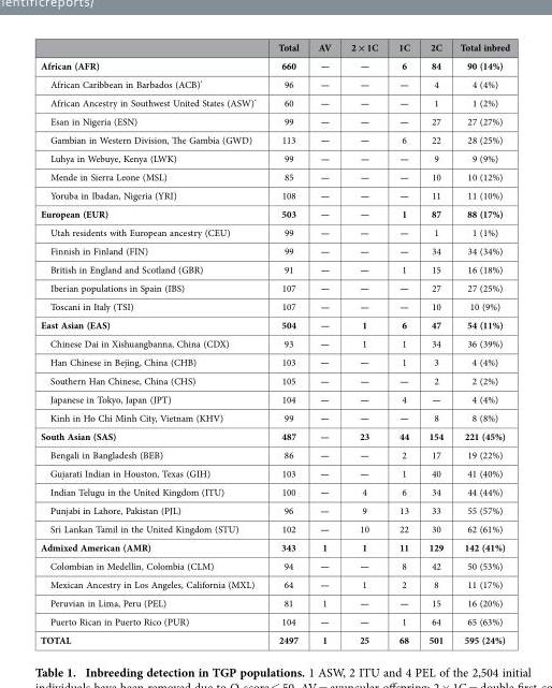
<table><thead><tr><td></td><td>Total</td><td>AV</td><td>2 × 1C</td><td>1C</td><td>2C</td><td>Total inbred</td></tr></thead><tbody><tr><td>African (AFR)</td><td>660</td><td>—</td><td>—</td><td>6</td><td>84</td><td>90 (14%)</td></tr><tr><td>African Caribbean in Barbados (ACB)*</td><td>96</td><td>—</td><td>—</td><td>—</td><td>4</td><td>4 (4%)</td></tr><tr><td>African Ancestry in Southwest United States (ASW)*</td><td>60</td><td>—</td><td>—</td><td>—</td><td>1</td><td>1 (2%)</td></tr><tr><td>Esan in Nigeria (ESN)</td><td>99</td><td>—</td><td>—</td><td>—</td><td>27</td><td>27 (27%)</td></tr><tr><td>Gambian in Western Division, The Gambia (GWD)</td><td>113</td><td>—</td><td>—</td><td>6</td><td>22</td><td>28 (25%)</td></tr><tr><td>Luhya in Webuye, Kenya (LWK)</td><td>99</td><td>—</td><td>—</td><td>—</td><td>9</td><td>9 (9%)</td></tr><tr><td>Mende in Sierra Leone (MSL)</td><td>85</td><td>—</td><td>—</td><td>—</td><td>10</td><td>10 (12%)</td></tr><tr><td>Yoruba in Ibadan, Nigeria (YRI)</td><td>108</td><td>—</td><td>—</td><td>—</td><td>11</td><td>11 (10%)</td></tr><tr><td>European (EUR)</td><td>503</td><td>—</td><td>—</td><td>1</td><td>87</td><td>88 (17%)</td></tr><tr><td>Utah residents with European ancestry (CEU)</td><td>99</td><td>—</td><td>—</td><td>—</td><td>1</td><td>1 (1%)</td></tr><tr><td>Finnish in Finland (FIN)</td><td>99</td><td>—</td><td>—</td><td>—</td><td>34</td><td>34 (34%)</td></tr><tr><td>British in England and Scotland (GBR)</td><td>91</td><td>—</td><td>—</td><td>1</td><td>15</td><td>16 (18%)</td></tr><tr><td>Iberian populations in Spain (IBS)</td><td>107</td><td>—</td><td>—</td><td>—</td><td>27</td><td>27 (25%)</td></tr><tr><td>Toscani in Italy (TSI)</td><td>107</td><td>—</td><td>—</td><td>—</td><td>10</td><td>10 (9%)</td></tr><tr><td>East Asian (EAS)</td><td>504</td><td>—</td><td>1</td><td>6</td><td>47</td><td>54 (11%)</td></tr><tr><td>Chinese Dai in Xishuangbanna, China (CDX)</td><td>93</td><td>—</td><td>1</td><td>1</td><td>34</td><td>36 (39%)</td></tr><tr><td>Han Chinese in Bejing, China (CHB)</td><td>103</td><td>—</td><td>—</td><td>1</td><td>3</td><td>4 (4%)</td></tr><tr><td>Southern Han Chinese, China (CHS)</td><td>105</td><td>—</td><td>—</td><td>—</td><td>2</td><td>2 (2%)</td></tr><tr><td>Japanese in Tokyo, Japan (JPT)</td><td>104</td><td>—</td><td>—</td><td>4</td><td>—</td><td>4 (4%)</td></tr><tr><td>Kinh in Ho Chi Minh City, Vietnam (KHV)</td><td>99</td><td>—</td><td>—</td><td>—</td><td>8</td><td>8 (8%)</td></tr><tr><td>South Asian (SAS)</td><td>487</td><td>—</td><td>23</td><td>44</td><td>154</td><td>221 (45%)</td></tr><tr><td>Bengali in Bangladesh (BEB)</td><td>86</td><td>—</td><td>—</td><td>2</td><td>17</td><td>19 (22%)</td></tr><tr><td>Gujarati Indian in Houston, Texas (GIH)</td><td>103</td><td>—</td><td>—</td><td>1</td><td>40</td><td>41 (40%)</td></tr><tr><td>Indian Telugu in the United Kingdom (ITU)</td><td>100</td><td>—</td><td>4</td><td>6</td><td>34</td><td>44 (44%)</td></tr><tr><td>Punjabi in Lahore, Pakistan (PJL)</td><td>96</td><td>—</td><td>9</td><td>13</td><td>33</td><td>55 (57%)</td></tr><tr><td>Sri Lankan Tamil in the United Kingdom (STU)</td><td>102</td><td>—</td><td>10</td><td>22</td><td>30</td><td>62 (61%)</td></tr><tr><td>Admixed American (AMR)</td><td>343</td><td>1</td><td>1</td><td>11</td><td>129</td><td>142 (41%)</td></tr><tr><td>Colombian in Medellin, Colombia (CLM)</td><td>94</td><td>—</td><td>—</td><td>8</td><td>42</td><td>50 (53%)</td></tr><tr><td>Mexican Ancestry in Los Angeles, California (MXL)</td><td>64</td><td>—</td><td>1</td><td>2</td><td>8</td><td>11 (17%)</td></tr><tr><td>Peruvian in Lima, Peru (PEL)</td><td>81</td><td>1</td><td>—</td><td>—</td><td>15</td><td>16 (20%)</td></tr><tr><td>Puerto Rican in Puerto Rico (PUR)</td><td>104</td><td>—</td><td>—</td><td>1</td><td>64</td><td>65 (63%)</td></tr><tr><td>TOTAL</td><td>2497</td><td>1</td><td>25</td><td>68</td><td>501</td><td>595 (24%)</td></tr></tbody></table>